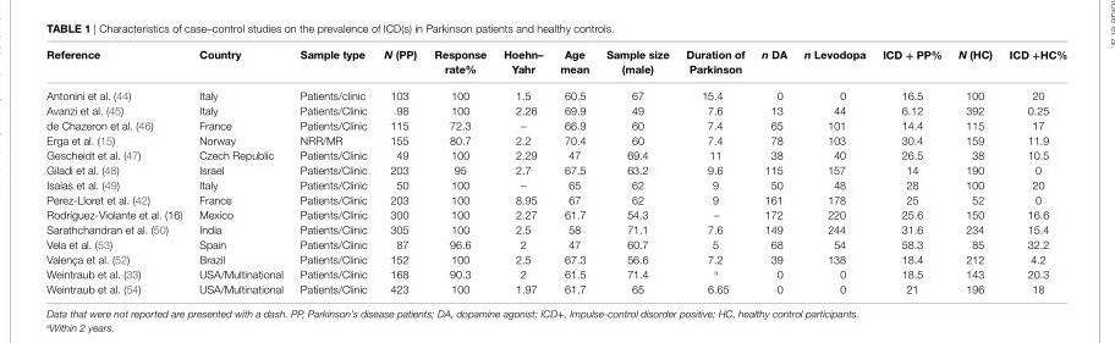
<table><thead><tr><td>Reference</td><td>country</td><td>Sample type</td><td>N (PP)</td><td>Response rate%</td><td>Hoehn– yahr</td><td>age mean</td><td>Sample size (male)</td><td>Duration of Parkinson</td><td>n Da</td><td>n levodopa</td><td>icD + PP%</td><td>N (Hc)</td><td>icD +Hc%</td></tr></thead><tbody><tr><td>Antonini et al. (44)</td><td>Italy</td><td>Patients/clinic</td><td>103</td><td>100</td><td>1.5</td><td>60.5</td><td>67</td><td>15.4</td><td>0</td><td>0</td><td>16.5</td><td>100</td><td>20</td></tr><tr><td>Avanzi et al. (45)</td><td>Italy</td><td>Patients/Clinic</td><td>98</td><td>100</td><td>2.26</td><td>69.9</td><td>49</td><td>7.6</td><td>13</td><td>44</td><td>6.12</td><td>392</td><td>0.25</td></tr><tr><td>de Chazeron et al. (46)</td><td>France</td><td>Patients/Clinic</td><td>115</td><td>72.3</td><td>–</td><td>66.9</td><td>60</td><td>7.4</td><td>65</td><td>101</td><td>14.4</td><td>115</td><td>17</td></tr><tr><td>Erga et al. (15)</td><td>Norway</td><td>NRR/MR</td><td>155</td><td>80.7</td><td>2.2</td><td>70.4</td><td>60</td><td>7.4</td><td>78</td><td>103</td><td>30.4</td><td>159</td><td>11.9</td></tr><tr><td>Gescheidt et al. (47)</td><td>Czech Republic</td><td>Patients/Clinic</td><td>49</td><td>100</td><td>2.29</td><td>47</td><td>69.4</td><td>11</td><td>38</td><td>40</td><td>26.5</td><td>38</td><td>10.5</td></tr><tr><td>Giladi et al. (48)</td><td>Israel</td><td>Patients/Clinic</td><td>203</td><td>95</td><td>2.7</td><td>67.5</td><td>63.2</td><td>9.6</td><td>115</td><td>157</td><td>14</td><td>190</td><td>0</td></tr><tr><td>Isaias et al. (49)</td><td>Italy</td><td>Patients/Clinic</td><td>50</td><td>100</td><td>–</td><td>65</td><td>62</td><td>9</td><td>50</td><td>48</td><td>28</td><td>100</td><td>20</td></tr><tr><td>Perez-Lloret et al. (42)</td><td>France</td><td>Patients/Clinic</td><td>203</td><td>100</td><td>8.95</td><td>67</td><td>62</td><td>9</td><td>161</td><td>178</td><td>25</td><td>52</td><td>0</td></tr><tr><td>Rodríguez-Violante et al. (16)</td><td>Mexico</td><td>Patients/Clinic</td><td>300</td><td>100</td><td>2.27</td><td>61.7</td><td>54.3</td><td>–</td><td>172</td><td>220</td><td>25.6</td><td>150</td><td>16.6</td></tr><tr><td>Sarathchandran et al. (50)</td><td>India</td><td>Patients/Clinic</td><td>305</td><td>100</td><td>2.5</td><td>58</td><td>71.1</td><td>7.6</td><td>149</td><td>244</td><td>31.6</td><td>234</td><td>15.4</td></tr><tr><td>Vela et al. (53)</td><td>Spain</td><td>Patients/Clinic</td><td>87</td><td>96.6</td><td>2</td><td>47</td><td>60.7</td><td>5</td><td>68</td><td>54</td><td>58.3</td><td>85</td><td>32.2</td></tr><tr><td>Valença et al. (52)</td><td>Brazil</td><td>Patients/Clinic</td><td>152</td><td>100</td><td>2.5</td><td>67.3</td><td>56.6</td><td>7.2</td><td>39</td><td>138</td><td>18.4</td><td>212</td><td>4.2</td></tr><tr><td>Weintraub et al. (33)</td><td>USA/Multinational</td><td>Patients/Clinic</td><td>168</td><td>90.3</td><td>2</td><td>61.5</td><td>71.4</td><td><sup>a</sup></td><td>0</td><td>0</td><td>18.5</td><td>143</td><td>20.3</td></tr><tr><td>Weintraub et al. (54)</td><td>USA/Multinational</td><td>Patients/Clinic</td><td>423</td><td>100</td><td>1.97</td><td>61.7</td><td>65</td><td>6.65</td><td>0</td><td>0</td><td>21</td><td>196</td><td>18</td></tr></tbody></table>